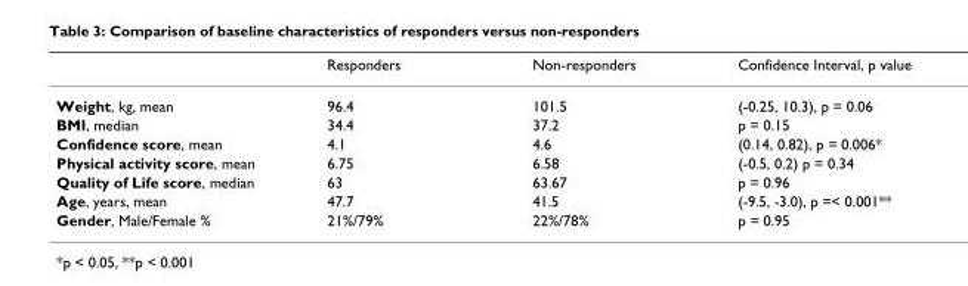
<table><thead><tr><td></td><td>Responders</td><td>Non-responders</td><td>Confidence Interval, p value</td></tr></thead><tbody><tr><td>Weight, kg, mean</td><td>96.4</td><td>101.5</td><td>(-0.25, 10.3), p = 0.06</td></tr><tr><td>BMI, median</td><td>34.4</td><td>37.2</td><td>p = 0.15</td></tr><tr><td>Confidence score, mean</td><td>4.1</td><td>4.6</td><td>(0.14, 0.82), p = 0.006*</td></tr><tr><td>Physical activity score, mean</td><td>6.75</td><td>6.58</td><td>(-0.5, 0.2) p = 0.34</td></tr><tr><td>Quality of Life score, median</td><td>63</td><td>63.67</td><td>p = 0.96</td></tr><tr><td>Age, years, mean</td><td>47.7</td><td>41.5</td><td>(-9.5, -3.0), p =&lt; 0.001**</td></tr><tr><td>Gender, Male/Female %</td><td>21%/79%</td><td>22%/78%</td><td>p = 0.95</td></tr></tbody></table>